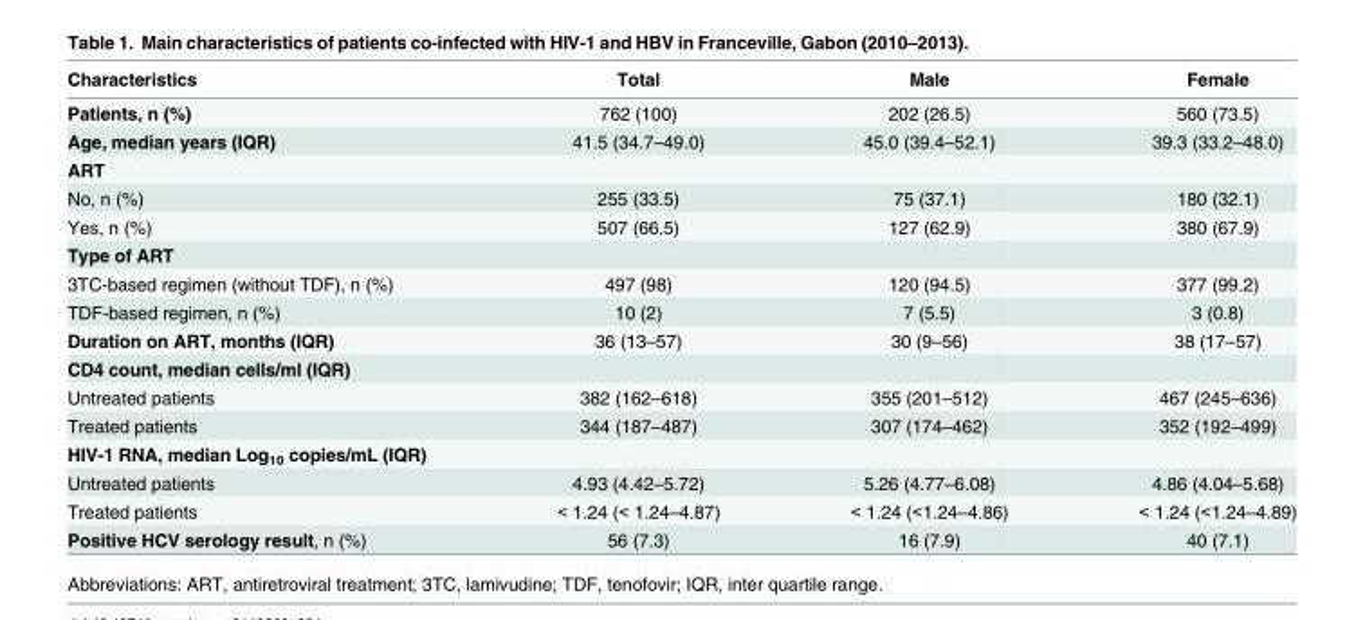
<table><thead><tr><td>Characteristics</td><td>Total</td><td>Male</td><td>Female</td></tr></thead><tbody><tr><td>Patients, n (%)</td><td>762 (100)</td><td>202 (26.5)</td><td>560 (73.5)</td></tr><tr><td>Age, median years (IQR)</td><td>41.5 (34.7–49.0)</td><td>45.0 (39.4–52.1)</td><td>39.3 (33.2–48.0)</td></tr><tr><td colspan="4">ART</td></tr><tr><td>No, n (%)</td><td>255 (33.5)</td><td>75 (37.1)</td><td>180 (32.1)</td></tr><tr><td>Yes, n (%)</td><td>507 (66.5)</td><td>127 (62.9)</td><td>380 (67.9)</td></tr><tr><td colspan="4">Type of ART</td></tr><tr><td>3TC-based regimen (without TDF), n (%)</td><td>497 (98)</td><td>120 (94.5)</td><td>377 (99.2)</td></tr><tr><td>TDF-based regimen, n (%)</td><td>10 (2)</td><td>7 (5.5)</td><td>3 (0.8)</td></tr><tr><td>Duration on ART, months (IQR)</td><td>36 (13–57)</td><td>30 (9–56)</td><td>38 (17–57)</td></tr><tr><td colspan="4">CD4 count, median cells/ml (IQR)</td></tr><tr><td>Untreated patients</td><td>382 (162–618)</td><td>355 (201–512)</td><td>467 (245–636)</td></tr><tr><td>Treated patients</td><td>344 (187–487)</td><td>307 (174–462)</td><td>352 (192–499)</td></tr><tr><td colspan="4">HIV-1 RNA, median Log<sub>10</sub> copies/mL (IQR)</td></tr><tr><td>Untreated patients</td><td>4.93 (4.42–5.72)</td><td>5.26 (4.77–6.08)</td><td>4.86 (4.04–5.68)</td></tr><tr><td>Treated patients</td><td>&lt; 1.24 (&lt; 1.24–4.87)</td><td>&lt; 1.24 (&lt;1.24–4.86)</td><td>&lt; 1.24 (&lt;1.24–4.89)</td></tr><tr><td>Positive HCV serology result, n (%)</td><td>56 (7.3)</td><td>16 (7.9)</td><td>40 (7.1)</td></tr></tbody></table>